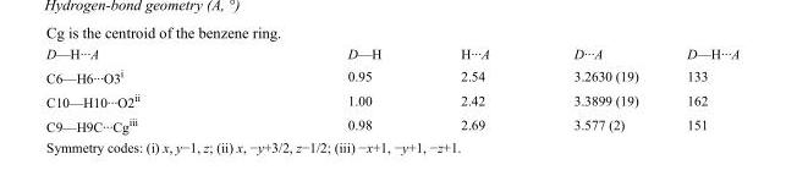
<table><tbody><tr><td>D—H···A</td><td>D—H</td><td>H···A</td><td>D···A</td><td>D—H···A</td></tr><tr><td>C6—H6···O3<sup>i</sup></td><td>0.95</td><td>2.54</td><td>3.2630 (19)</td><td>133</td></tr><tr><td>C10—H10···O2<sup>ii</sup></td><td>1.00</td><td>2.42</td><td>3.3899 (19)</td><td>162</td></tr><tr><td>C9—H9C···Cg<sup>iii</sup></td><td>0.98</td><td>2.69</td><td>3.577 (2)</td><td>151</td></tr></tbody></table>